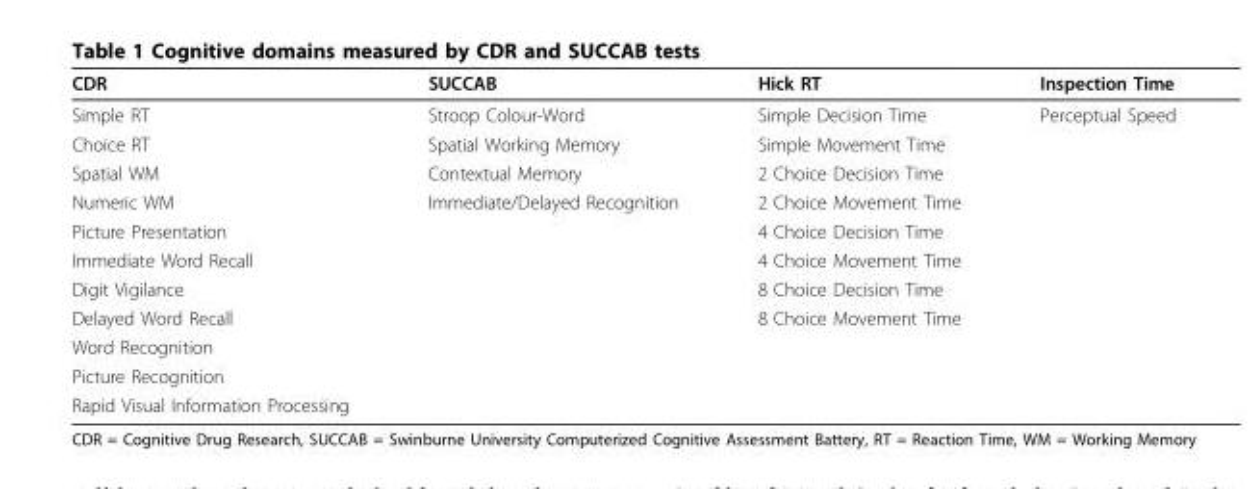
<table><thead><tr><td>CDR</td><td>SUCCAB</td><td>Hick RT</td><td>Inspection Time</td></tr></thead><tbody><tr><td>Simple RT</td><td>Stroop Colour-Word</td><td>Simple Decision Time</td><td>Perceptual Speed</td></tr><tr><td>Choice RT</td><td>Spatial Working Memory</td><td>Simple Movement Time</td><td></td></tr><tr><td>Spatial WM</td><td>Contextual Memory</td><td>2 Choice Decision Time</td><td></td></tr><tr><td>Numeric WM</td><td>Immediate/Delayed Recognition</td><td>2 Choice Movement Time</td><td></td></tr><tr><td>Picture Presentation</td><td></td><td>4 Choice Decision Time</td><td></td></tr><tr><td>Immediate Word Recall</td><td></td><td>4 Choice Movement Time</td><td></td></tr><tr><td>Digit Vigilance</td><td></td><td>8 Choice Decision Time</td><td></td></tr><tr><td>Delayed Word Recall</td><td></td><td>8 Choice Movement Time</td><td></td></tr><tr><td colspan="4">Word Recognition</td></tr><tr><td colspan="4">Picture Recognition</td></tr><tr><td>Rapid Visual Information Processing</td><td></td><td></td><td></td></tr></tbody></table>